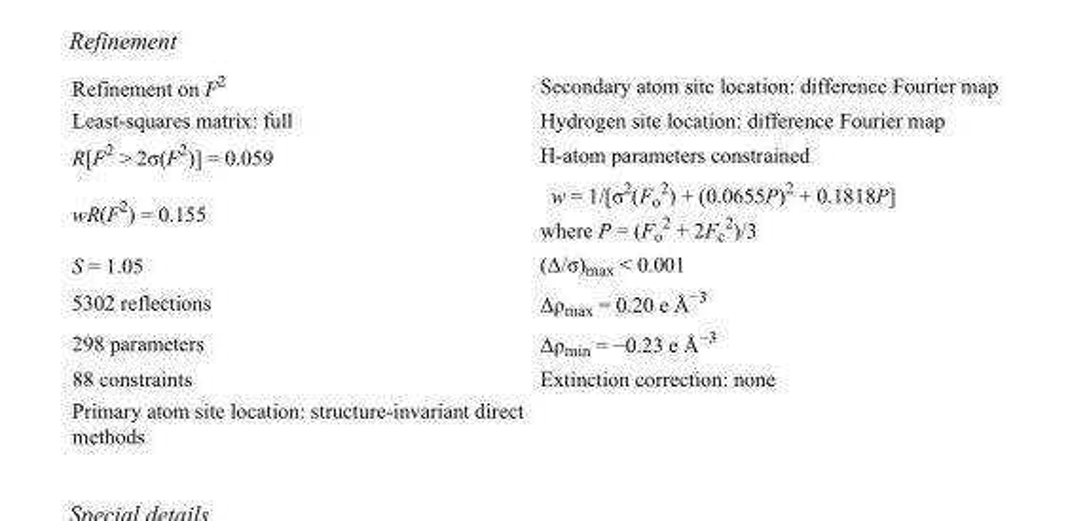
<table><tbody><tr><td>Refinement on F<sup>2</sup></td><td>Secondary atom site location: difference Fourier map</td></tr><tr><td>Least-squares matrix: full</td><td>Hydrogen site location: difference Fourier map</td></tr><tr><td>R[F<sup>2</sup> &gt; 2σ(F<sup>2</sup>)] = 0.059</td><td>H-atom parameters constrained</td></tr><tr><td>wR(F<sup>2</sup>) = 0.155</td><td>w = 1/[σ<sup>2</sup>(F<sub>o</sub> <sup>2</sup>) + (0.0655P)<sup>2</sup> + 0.1818P] where P = (F<sub>o</sub> <sup>2</sup> + 2F<sub>c</sub> <sup>2</sup>)/3</td></tr><tr><td>S = 1.05</td><td>(Δ/σ)<sub>max</sub> &lt; 0.001</td></tr><tr><td>5302 reflections</td><td>Δρ<sub>max</sub> = 0.20 e Å<sup>−3</sup></td></tr><tr><td>298 parameters</td><td>Δρ<sub>min</sub> = −0.23 e Å<sup>−3</sup></td></tr><tr><td>88 constraints</td><td>Extinction correction: none</td></tr><tr><td>Primary atom site location: structure-invariant direct methods</td><td></td></tr></tbody></table>